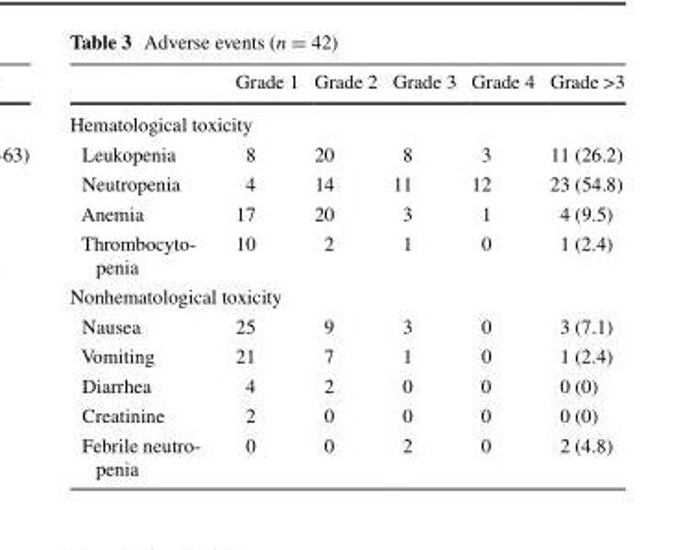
<table><thead><tr><td></td><td>Grade 1</td><td>Grade 2</td><td>Grade 3</td><td>Grade 4</td><td>Grade &gt;3</td></tr></thead><tbody><tr><td colspan="6">Hematological toxicity</td></tr><tr><td>Leukopenia</td><td>8</td><td>20</td><td>8</td><td>3</td><td>11 (26.2)</td></tr><tr><td>Neutropenia</td><td>4</td><td>14</td><td>11</td><td>12</td><td>23 (54.8)</td></tr><tr><td>Anemia</td><td>17</td><td>20</td><td>3</td><td>1</td><td>4 (9.5)</td></tr><tr><td>Thrombocyto- penia</td><td>10</td><td>2</td><td>1</td><td>0</td><td>1 (2.4)</td></tr><tr><td colspan="6">Nonhematological toxicity</td></tr><tr><td>Nausea</td><td>25</td><td>9</td><td>3</td><td>0</td><td>3 (7.1)</td></tr><tr><td>Vomiting</td><td>21</td><td>7</td><td>1</td><td>0</td><td>1 (2.4)</td></tr><tr><td>Diarrhea</td><td>4</td><td>2</td><td>0</td><td>0</td><td>0 (0)</td></tr><tr><td>Creatinine</td><td>2</td><td>0</td><td>0</td><td>0</td><td>0 (0)</td></tr><tr><td>Febrile neutro- penia</td><td>0</td><td>0</td><td>2</td><td>0</td><td>2 (4.8)</td></tr></tbody></table>